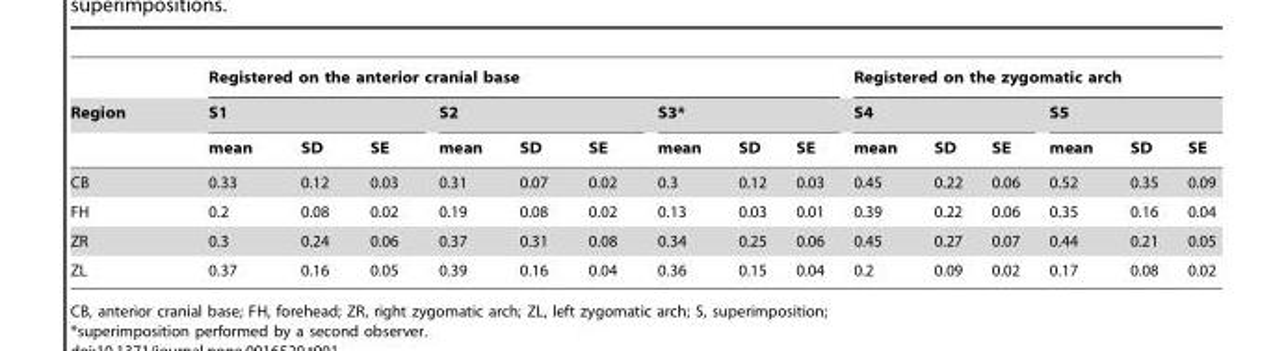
<table><thead><tr><td rowspan="3">Region</td><td colspan="9">Registered on the anterior cranial base</td><td colspan="6">Registered on the zygomatic arch</td></tr><tr><td colspan="3">S1</td><td colspan="3">S2</td><td colspan="3">S3*</td><td colspan="3">S4</td><td colspan="3">S5</td></tr><tr><td>mean</td><td>SD</td><td>SE</td><td>mean</td><td>SD</td><td>SE</td><td>mean</td><td>SD</td><td>SE</td><td>mean</td><td>SD</td><td>SE</td><td>mean</td><td>SD</td><td>SE</td></tr></thead><tbody><tr><td>CB</td><td>0.33</td><td>0.12</td><td>0.03</td><td>0.31</td><td>0.07</td><td>0.02</td><td>0.3</td><td>0.12</td><td>0.03</td><td>0.45</td><td>0.22</td><td>0.06</td><td>0.52</td><td>0.35</td><td>0.09</td></tr><tr><td>FH</td><td>0.2</td><td>0.08</td><td>0.02</td><td>0.19</td><td>0.08</td><td>0.02</td><td>0.13</td><td>0.03</td><td>0.01</td><td>0.39</td><td>0.22</td><td>0.06</td><td>0.35</td><td>0.16</td><td>0.04</td></tr><tr><td>ZR</td><td>0.3</td><td>0.24</td><td>0.06</td><td>0.37</td><td>0.31</td><td>0.08</td><td>0.34</td><td>0.25</td><td>0.06</td><td>0.45</td><td>0.27</td><td>0.07</td><td>0.44</td><td>0.21</td><td>0.05</td></tr><tr><td>ZL</td><td>0.37</td><td>0.16</td><td>0.05</td><td>0.39</td><td>0.16</td><td>0.04</td><td>0.36</td><td>0.15</td><td>0.04</td><td>0.2</td><td>0.09</td><td>0.02</td><td>0.17</td><td>0.08</td><td>0.02</td></tr></tbody></table>